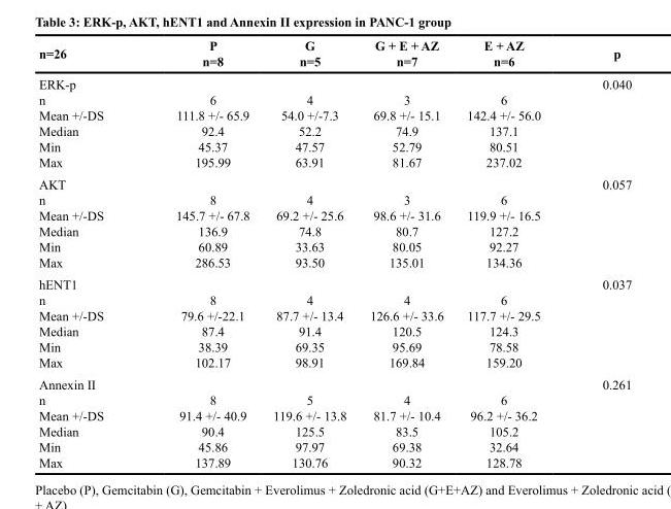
<table><thead><tr><td>n=26</td><td>P n=8</td><td>G n=5</td><td>G + E + AZ n=7</td><td>E + AZ n=6</td><td>p</td></tr></thead><tbody><tr><td>ERK-p n Mean +/-DS Median Min Max</td><td>6 111.8 +/- 65.9 92.4 45.37 195.99</td><td>4 54.0 +/-7.3 52.2 47.57 63.91</td><td>3 69.8 +/- 15.1 74.9 52.79 81.67</td><td>6 142.4 +/- 56.0 137.1 80.51 237.02</td><td>0.040</td></tr><tr><td>AKT n Mean +/-DS Median Min Max</td><td>8 145.7 +/- 67.8 136.9 60.89 286.53</td><td>4 69.2 +/- 25.6 74.8 33.63 93.50</td><td>3 98.6 +/- 31.6 80.7 80.05 135.01</td><td>6 119.9 +/- 16.5 127.2 92.27 134.36</td><td>0.057</td></tr><tr><td>hENT1 n Mean +/-DS Median Min Max</td><td>8 79.6 +/-22.1 87.4 38.39 102.17</td><td>4 87.7 +/- 13.4 91.4 69.35 98.91</td><td>4 126.6 +/- 33.6 120.5 95.69 169.84</td><td>6 117.7 +/- 29.5 124.3 78.58 159.20</td><td>0.037</td></tr><tr><td>Annexin II n Mean +/-DS Median Min Max</td><td>8 91.4 +/- 40.9 90.4 45.86 137.89</td><td>5 119.6 +/- 13.8 125.5 97.97 130.76</td><td>4 81.7 +/- 10.4 83.5 69.38 90.32</td><td>6 96.2 +/- 36.2 105.2 32.64 128.78</td><td>0.261</td></tr></tbody></table>